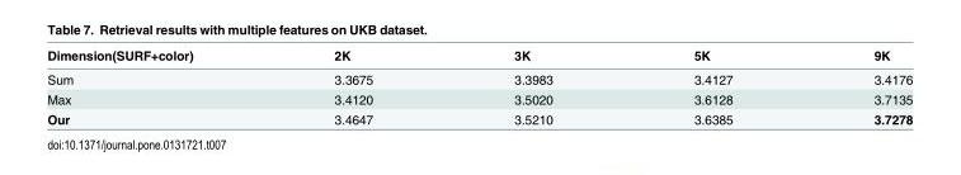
<table><thead><tr><td>Dimension(SURF+color)</td><td>2K</td><td>3K</td><td>5K</td><td>9K</td></tr></thead><tbody><tr><td>Sum</td><td>3.3675</td><td>3.3983</td><td>3.4127</td><td>3.4176</td></tr><tr><td>Max</td><td>3.4120</td><td>3.5020</td><td>3.6128</td><td>3.7135</td></tr><tr><td>Our</td><td>3.4647</td><td>3.5210</td><td>3.6385</td><td>3.7278</td></tr></tbody></table>